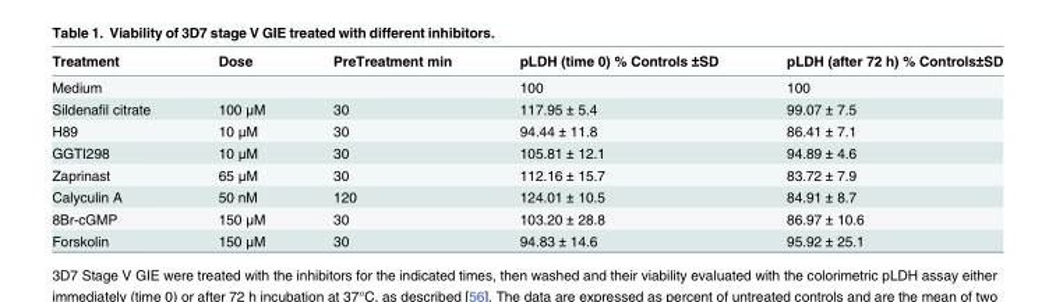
<table><thead><tr><td>Treatment</td><td>Dose</td><td>PreTreatment min</td><td>pLDH (time 0) % Controls ±SD</td><td>pLDH (after 72 h) % Controls±SD</td></tr></thead><tbody><tr><td>Medium</td><td></td><td></td><td>100</td><td>100</td></tr><tr><td>Sildenafil citrate</td><td>100 μM</td><td>30</td><td>117.95 ± 5.4</td><td>99.07 ± 7.5</td></tr><tr><td>H89</td><td>10 μM</td><td>30</td><td>94.44 ± 11.8</td><td>86.41 ± 7.1</td></tr><tr><td>GGTI298</td><td>10 μM</td><td>30</td><td>105.81 ± 12.1</td><td>94.89 ± 4.6</td></tr><tr><td>Zaprinast</td><td>65 μM</td><td>30</td><td>112.16 ± 15.7</td><td>83.72 ± 7.9</td></tr><tr><td>Calyculin A</td><td>50 nM</td><td>120</td><td>124.01 ± 10.5</td><td>84.91 ± 8.7</td></tr><tr><td>8Br-cGMP</td><td>150 μM</td><td>30</td><td>103.20 ± 28.8</td><td>86.97 ± 10.6</td></tr><tr><td>Forskolin</td><td>150 μM</td><td>30</td><td>94.83 ± 14.6</td><td>95.92 ± 25.1</td></tr></tbody></table>